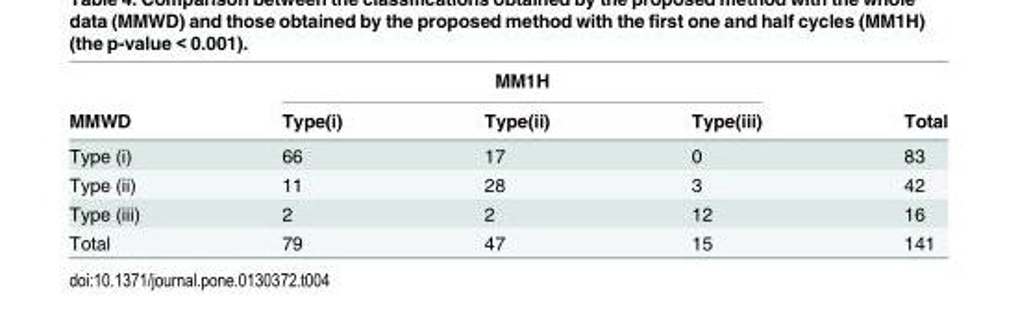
<table><thead><tr><td rowspan="2">MMWD</td><td colspan="3">MM1H</td><td rowspan="2">Total</td></tr><tr><td>Type(i)</td><td>Type(ii)</td><td>Type(iii)</td></tr></thead><tbody><tr><td>Type (i)</td><td>66</td><td>17</td><td>0</td><td>83</td></tr><tr><td>Type (ii)</td><td>11</td><td>28</td><td>3</td><td>42</td></tr><tr><td>Type (iii)</td><td>2</td><td>2</td><td>12</td><td>16</td></tr><tr><td>Total</td><td>79</td><td>47</td><td>15</td><td>141</td></tr></tbody></table>